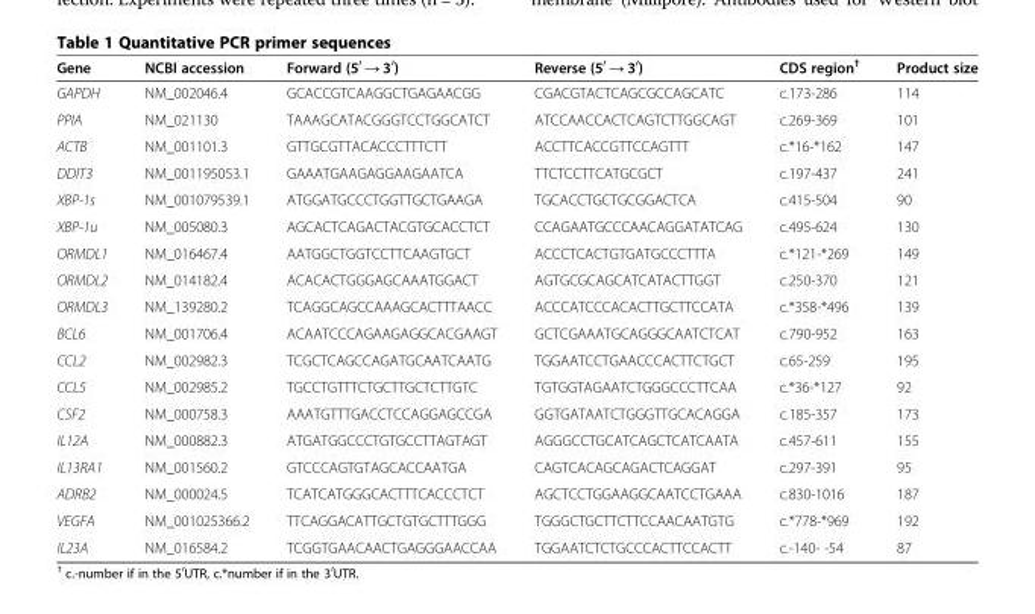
<table><thead><tr><td>Gene</td><td>NCBI accession</td><td>Forward (5<sup>′</sup> → 3<sup>′</sup>)</td><td>Reverse (5<sup>′</sup> → 3<sup>′</sup>)</td><td>CDS region<sup>†</sup></td><td>Product size</td></tr></thead><tbody><tr><td>GAPDH</td><td>NM_002046.4</td><td>GCACCGTCAAGGCTGAGAACGG</td><td>CGACGTACTCAGCGCCAGCATC</td><td>c.173-286</td><td>114</td></tr><tr><td>PPIA</td><td>NM_021130</td><td>TAAAGCATACGGGTCCTGGCATCT</td><td>ATCCAACCACTCAGTCTTGGCAGT</td><td>c.269-369</td><td>101</td></tr><tr><td>ACTB</td><td>NM_001101.3</td><td>GTTGCGTTACACCCTTTCTT</td><td>ACCTTCACCGTTCCAGTTT</td><td>c.*16-*162</td><td>147</td></tr><tr><td>DDIT3</td><td>NM_001195053.1</td><td>GAAATGAAGAGGAAGAATCA</td><td>TTCTCCTTCATGCGCT</td><td>c.197-437</td><td>241</td></tr><tr><td>XBP-1s</td><td>NM_001079539.1</td><td>ATGGATGCCCTGGTTGCTGAAGA</td><td>TGCACCTGCTGCGGACTCA</td><td>c.415-504</td><td>90</td></tr><tr><td>XBP-1u</td><td>NM_005080.3</td><td>AGCACTCAGACTACGTGCACCTCT</td><td>CCAGAATGCCCAACAGGATATCAG</td><td>c.495-624</td><td>130</td></tr><tr><td>ORMDL1</td><td>NM_016467.4</td><td>AATGGCTGGTCCTTCAAGTGCT</td><td>ACCCTCACTGTGATGCCCTTTA</td><td>c.*121-*269</td><td>149</td></tr><tr><td>ORMDL2</td><td>NM_014182.4</td><td>ACACACTGGGAGCAAATGGACT</td><td>AGTGCGCAGCATCATACTTGGT</td><td>c.250-370</td><td>121</td></tr><tr><td>ORMDL3</td><td>NM_139280.2</td><td>TCAGGCAGCCAAAGCACTTTAACC</td><td>ACCCATCCCACACTTGCTTCCATA</td><td>c.*358-*496</td><td>139</td></tr><tr><td>BCL6</td><td>NM_001706.4</td><td>ACAATCCCAGAAGAGGCACGAAGT</td><td>GCTCGAAATGCAGGGCAATCTCAT</td><td>c.790-952</td><td>163</td></tr><tr><td>CCL2</td><td>NM_002982.3</td><td>TCGCTCAGCCAGATGCAATCAATG</td><td>TGGAATCCTGAACCCACTTCTGCT</td><td>c.65-259</td><td>195</td></tr><tr><td>CCL5</td><td>NM_002985.2</td><td>TGCCTGTTTCTGCTTGCTCTTGTC</td><td>TGTGGTAGAATCTGGGCCCTTCAA</td><td>c.*36-*127</td><td>92</td></tr><tr><td>CSF2</td><td>NM_000758.3</td><td>AAATGTTTGACCTCCAGGAGCCGA</td><td>GGTGATAATCTGGGTTGCACAGGA</td><td>c.185-357</td><td>173</td></tr><tr><td>IL12A</td><td>NM_000882.3</td><td>ATGATGGCCCTGTGCCTTAGTAGT</td><td>AGGGCCTGCATCAGCTCATCAATA</td><td>c.457-611</td><td>155</td></tr><tr><td>IL13RA1</td><td>NM_001560.2</td><td>GTCCCAGTGTAGCACCAATGA</td><td>CAGTCACAGCAGACTCAGGAT</td><td>c.297-391</td><td>95</td></tr><tr><td>ADRB2</td><td>NM_000024.5</td><td>TCATCATGGGCACTTTCACCCTCT</td><td>AGCTCCTGGAAGGCAATCCTGAAA</td><td>c.830-1016</td><td>187</td></tr><tr><td>VEGFA</td><td>NM_001025366.2</td><td>TTCAGGACATTGCTGTGCTTTGGG</td><td>TGGGCTGCTTCTTCCAACAATGTG</td><td>c.*778-*969</td><td>192</td></tr><tr><td>IL23A</td><td>NM_016584.2</td><td>TCGGTGAACAACTGAGGGAACCAA</td><td>TGGAATCTCTGCCCACTTCCACTT</td><td>c.-140- -54</td><td>87</td></tr></tbody></table>